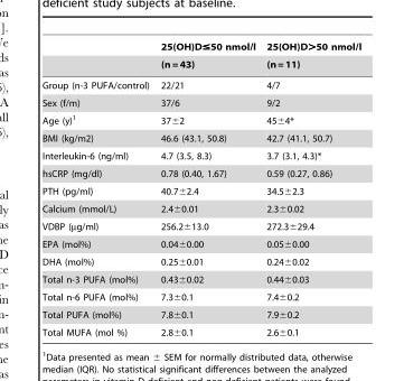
<table><thead><tr><td rowspan="2"></td><td rowspan="2">25(OH)D≤50 nmol/l (n = 43)</td><td rowspan="2">25(OH)D&gt;50 nmol/l (n = 11)</td></tr><tr></tr></thead><tbody><tr><td>Group (n-3 PUFA/control)</td><td>22/21</td><td>4/7</td></tr><tr><td>Sex (f/m)</td><td>37/6</td><td>9/2</td></tr><tr><td>Age (y)<sup>1</sup></td><td>37±2</td><td>45±4*</td></tr><tr><td>BMI (kg/m2)</td><td>46.6 (43.1, 50.8)</td><td>42.7 (41.1, 50.7)</td></tr><tr><td>Interleukin-6 (ng/ml)</td><td>4.7 (3.5, 8.3)</td><td>3.7 (3.1, 4.3)*</td></tr><tr><td>hsCRP (mg/dl)</td><td>0.78 (0.40, 1.67)</td><td>0.59 (0.27, 0.86)</td></tr><tr><td>PTH (pg/ml)</td><td>40.7±2.4</td><td>34.5±2.3</td></tr><tr><td>Calcium (mmol/L)</td><td>2.4±0.01</td><td>2.3±0.02</td></tr><tr><td>VDBP (µg/ml)</td><td>256.2±13.0</td><td>272.3±29.4</td></tr><tr><td>EPA (mol%)</td><td>0.04±0.00</td><td>0.05±0.00</td></tr><tr><td>DHA (mol%)</td><td>0.25±0.01</td><td>0.24±0.02</td></tr><tr><td>Total n-3 PUFA (mol%)</td><td>0.43±0.02</td><td>0.44±0.03</td></tr><tr><td>Total n-6 PUFA (mol%)</td><td>7.3±0.1</td><td>7.4±0.2</td></tr><tr><td>Total PUFA (mol%)</td><td>7.8±0.1</td><td>7.9±0.2</td></tr><tr><td>Total MUFA (mol %)</td><td>2.8±0.1</td><td>2.6±0.1</td></tr></tbody></table>